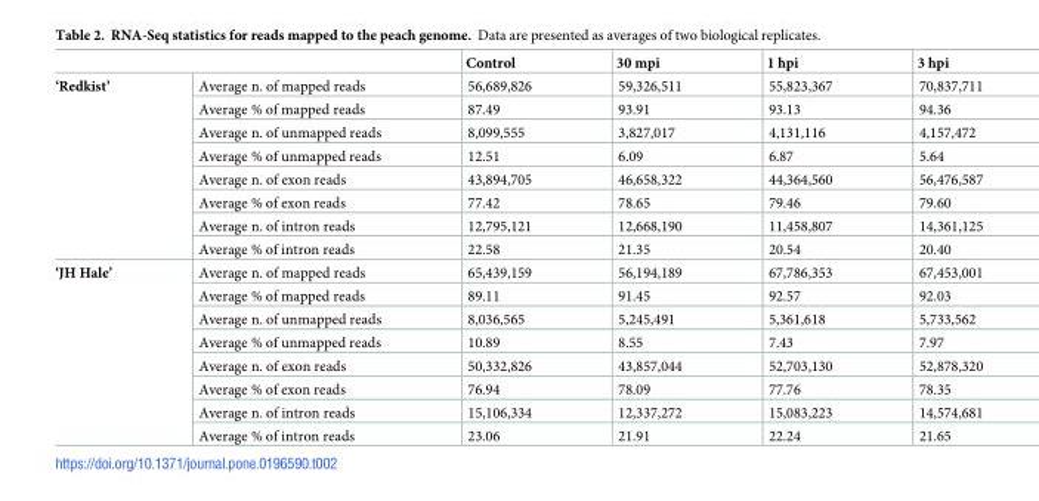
<table><thead><tr><td></td><td></td><td>Control</td><td>30 mpi</td><td>1 hpi</td><td>3 hpi</td></tr></thead><tbody><tr><td rowspan="8">‘Redkist’</td><td>Average n. of mapped reads</td><td>56,689,826</td><td>59,326,511</td><td>55,823,367</td><td>70,837,711</td></tr><tr><td>Average % of mapped reads</td><td>87.49</td><td>93.91</td><td>93.13</td><td>94.36</td></tr><tr><td>Average n. of unmapped reads</td><td>8,099,555</td><td>3,827,017</td><td>4,131,116</td><td>4,157,472</td></tr><tr><td>Average % of unmapped reads</td><td>12.51</td><td>6.09</td><td>6.87</td><td>5.64</td></tr><tr><td>Average n. of exon reads</td><td>43,894,705</td><td>46,658,322</td><td>44,364,560</td><td>56,476,587</td></tr><tr><td>Average % of exon reads</td><td>77.42</td><td>78.65</td><td>79.46</td><td>79.60</td></tr><tr><td>Average n. of intron reads</td><td>12,795,121</td><td>12,668,190</td><td>11,458,807</td><td>14,361,125</td></tr><tr><td>Average % of intron reads</td><td>22.58</td><td>21.35</td><td>20.54</td><td>20.40</td></tr><tr><td rowspan="8">‘JH Hale’</td><td>Average n. of mapped reads</td><td>65,439,159</td><td>56,194,189</td><td>67,786,353</td><td>67,453,001</td></tr><tr><td>Average % of mapped reads</td><td>89.11</td><td>91.45</td><td>92.57</td><td>92.03</td></tr><tr><td>Average n. of unmapped reads</td><td>8,036,565</td><td>5,245,491</td><td>5,361,618</td><td>5,733,562</td></tr><tr><td>Average % of unmapped reads</td><td>10.89</td><td>8.55</td><td>7.43</td><td>7.97</td></tr><tr><td>Average n. of exon reads</td><td>50,332,826</td><td>43,857,044</td><td>52,703,130</td><td>52,878,320</td></tr><tr><td>Average % of exon reads</td><td>76.94</td><td>78.09</td><td>77.76</td><td>78.35</td></tr><tr><td>Average n. of intron reads</td><td>15,106,334</td><td>12,337,272</td><td>15,083,223</td><td>14,574,681</td></tr><tr><td>Average % of intron reads</td><td>23.06</td><td>21.91</td><td>22.24</td><td>21.65</td></tr></tbody></table>